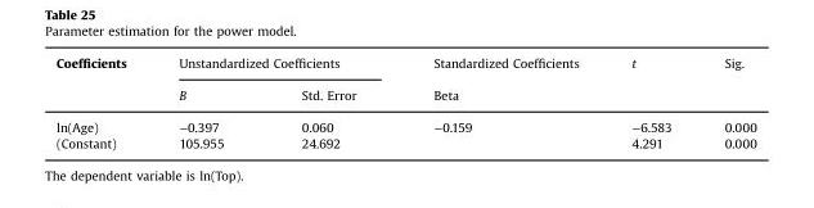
<table><thead><tr><td rowspan="2">Coefficients</td><td colspan="2">Unstandardized Coefficients</td><td rowspan="2">Standardized Coefficients Beta</td><td rowspan="2">t</td><td rowspan="2">Sig.</td></tr><tr><td>B</td><td>Std. Error</td></tr></thead><tbody><tr><td>ln(Age)</td><td>−0.397</td><td>0.060</td><td>−0.159</td><td>−6.583</td><td>0.000</td></tr><tr><td>(Constant)</td><td>105.955</td><td>24.692</td><td></td><td>4.291</td><td>0.000</td></tr></tbody></table>